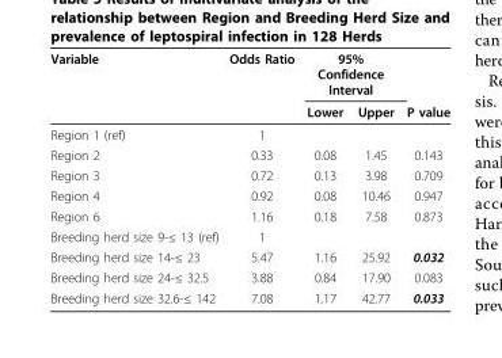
<table><thead><tr><td rowspan="2">Variable</td><td rowspan="2">Odds Ratio</td><td colspan="2">95% Confidence Interval</td><td rowspan="2">P value</td></tr><tr><td>Lower</td><td>Upper</td></tr></thead><tbody><tr><td>Region 1 (ref)</td><td>1</td><td></td><td></td><td></td></tr><tr><td>Region 2</td><td>0.33</td><td>0.08</td><td>1.45</td><td>0.143</td></tr><tr><td>Region 3</td><td>0.72</td><td>0.13</td><td>3.98</td><td>0.709</td></tr><tr><td>Region 4</td><td>0.92</td><td>0.08</td><td>10.46</td><td>0.947</td></tr><tr><td>Region 6</td><td>1.16</td><td>0.18</td><td>7.58</td><td>0.873</td></tr><tr><td>Breeding herd size 9-≤ 13 (ref)</td><td>1</td><td></td><td></td><td></td></tr><tr><td>Breeding herd size 14-≤ 23</td><td>5.47</td><td>1.16</td><td>25.92</td><td>0.032</td></tr><tr><td>Breeding herd size 24-≤ 32.5</td><td>3.88</td><td>0.84</td><td>17.90</td><td>0.083</td></tr><tr><td>Breeding herd size 32.6-≤ 142</td><td>7.08</td><td>1.17</td><td>42.77</td><td>0.033</td></tr></tbody></table>